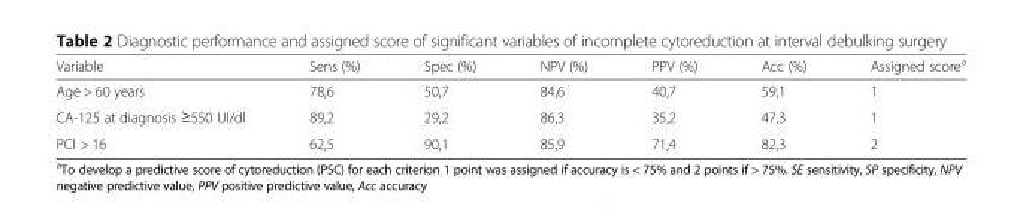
<table><thead><tr><td>Variable</td><td>Sens (%)</td><td>Spec (%)</td><td>NPV (%)</td><td>PPV (%)</td><td>Acc (%)</td><td>Assigned score<sup>a</sup></td></tr></thead><tbody><tr><td>Age &gt; 60 years</td><td>78,6</td><td>50,7</td><td>84,6</td><td>40,7</td><td>59,1</td><td>1</td></tr><tr><td>CA-125 at diagnosis ≥550 UI/dl</td><td>89,2</td><td>29,2</td><td>86,3</td><td>35,2</td><td>47,3</td><td>1</td></tr><tr><td>PCI &gt; 16</td><td>62,5</td><td>90,1</td><td>85,9</td><td>71,4</td><td>82,3</td><td>2</td></tr></tbody></table>